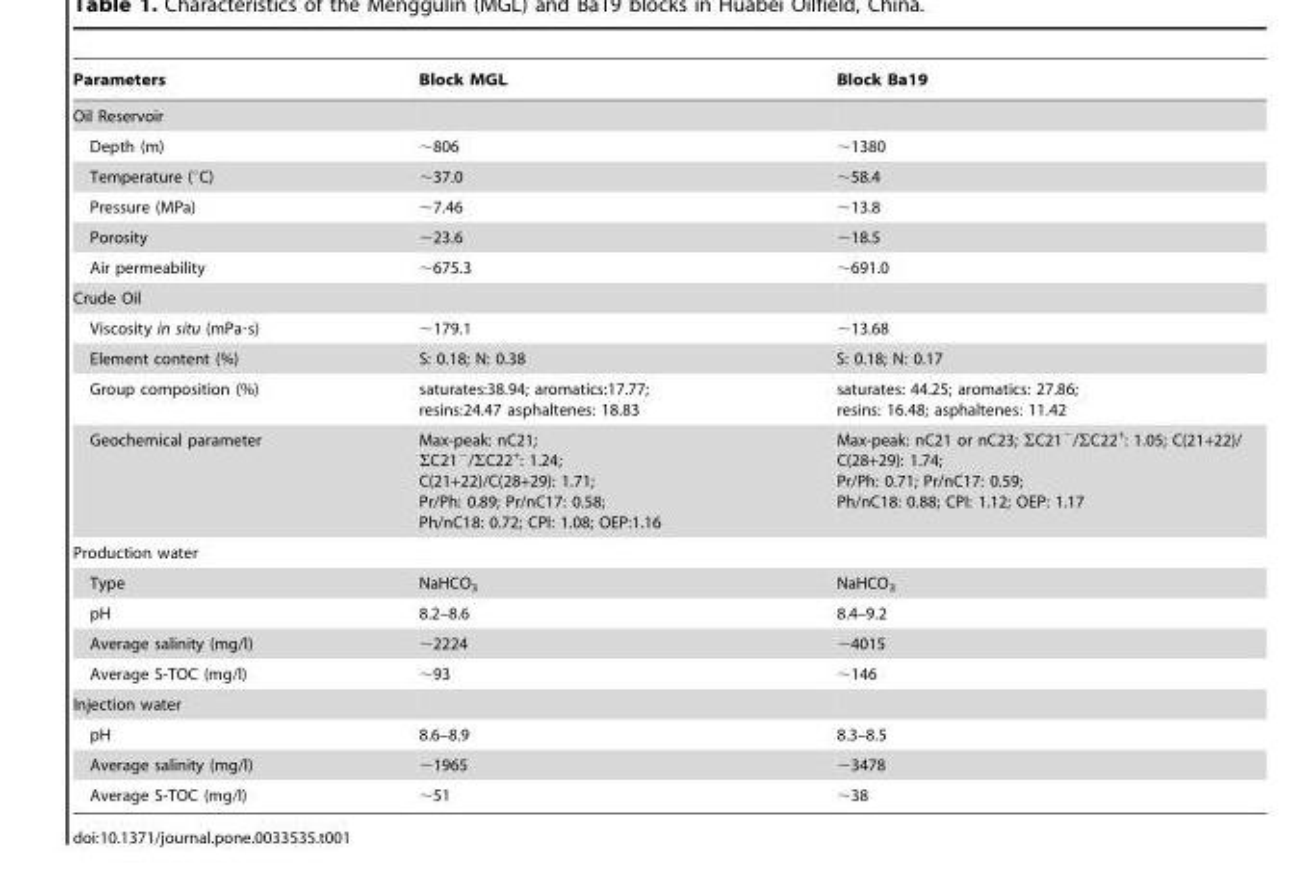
<table><thead><tr><td>Parameters</td><td>Block MGL</td><td>Block Ba19</td></tr></thead><tbody><tr><td colspan="3">Oil Reservoir</td></tr><tr><td>Depth (m)</td><td>∼806</td><td>∼1380</td></tr><tr><td>Temperature (°C)</td><td>∼37.0</td><td>∼58.4</td></tr><tr><td>Pressure (MPa)</td><td>∼7.46</td><td>∼13.8</td></tr><tr><td>Porosity</td><td>∼23.6</td><td>∼18.5</td></tr><tr><td>Air permeability</td><td>∼675.3</td><td>∼691.0</td></tr><tr><td colspan="3">Crude Oil</td></tr><tr><td>Viscosity in situ (mPa·s)</td><td>∼179.1</td><td>∼13.68</td></tr><tr><td>Element content (%)</td><td>S: 0.18; N: 0.38</td><td>S: 0.18; N: 0.17</td></tr><tr><td>Group composition (%)</td><td>saturates:38.94; aromatics:17.77; resins:24.47 asphaltenes: 18.83</td><td>saturates: 44.25; aromatics: 27.86; resins: 16.48; asphaltenes: 11.42</td></tr><tr><td>Geochemical parameter</td><td>Max-peak: nC21; ΣC21<sup>−</sup>/ΣC22<sup>+</sup>: 1.24; C(21+22)/C(28+29): 1.71; Pr/Ph: 0.89; Pr/nC17: 0.58; Ph/nC18: 0.72; CPI: 1.08; OEP:1.16</td><td>Max-peak: nC21 or nC23; ΣC21<sup>−</sup>/ΣC22<sup>+</sup>: 1.05; C(21+22)/ C(28+29): 1.74; Pr/Ph: 0.71; Pr/nC17: 0.59; Ph/nC18: 0.88; CPI: 1.12; OEP: 1.17</td></tr><tr><td colspan="3">Production water</td></tr><tr><td>Type</td><td>NaHCO<sub>3</sub></td><td>NaHCO<sub>3</sub></td></tr><tr><td>pH</td><td>8.2–8.6</td><td>8.4–9.2</td></tr><tr><td>Average salinity (mg/l)</td><td>∼2224</td><td>∼4015</td></tr><tr><td>Average S-TOC (mg/l)</td><td>∼93</td><td>∼146</td></tr><tr><td colspan="3">Injection water</td></tr><tr><td>pH</td><td>8.6–8.9</td><td>8.3–8.5</td></tr><tr><td>Average salinity (mg/l)</td><td>∼1965</td><td>∼3478</td></tr><tr><td>Average S-TOC (mg/l)</td><td>∼51</td><td>∼38</td></tr></tbody></table>